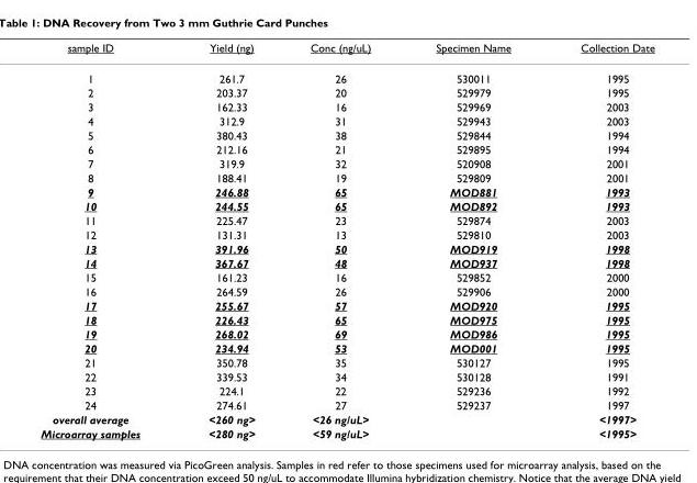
<table><thead><tr><td>sample ID</td><td>Yield (ng)</td><td>Conc (ng/uL)</td><td>Specimen Name</td><td>Collection Date</td></tr></thead><tbody><tr><td>1</td><td>261.7</td><td>26</td><td>530011</td><td>1995</td></tr><tr><td>2</td><td>203.37</td><td>20</td><td>529979</td><td>1995</td></tr><tr><td>3</td><td>162.33</td><td>16</td><td>529969</td><td>2003</td></tr><tr><td>4</td><td>312.9</td><td>31</td><td>529943</td><td>2003</td></tr><tr><td>5</td><td>380.43</td><td>38</td><td>529844</td><td>1994</td></tr><tr><td>6</td><td>212.16</td><td>21</td><td>529895</td><td>1994</td></tr><tr><td>7</td><td>319.9</td><td>32</td><td>520908</td><td>2001</td></tr><tr><td>8</td><td>188.41</td><td>19</td><td>529809</td><td>2001</td></tr><tr><td>9</td><td>246.88</td><td>65</td><td>MOD881</td><td>1993</td></tr><tr><td>10</td><td>244.55</td><td>65</td><td>MOD892</td><td>1993</td></tr><tr><td>11</td><td>225.47</td><td>23</td><td>529874</td><td>2003</td></tr><tr><td>12</td><td>131.31</td><td>13</td><td>529810</td><td>2003</td></tr><tr><td>13</td><td>391.96</td><td>50</td><td>MOD919</td><td>1998</td></tr><tr><td>14</td><td>367.67</td><td>48</td><td>MOD937</td><td>1998</td></tr><tr><td>15</td><td>161.23</td><td>16</td><td>529852</td><td>2000</td></tr><tr><td>16</td><td>264.59</td><td>26</td><td>529906</td><td>2000</td></tr><tr><td>17</td><td>255.67</td><td>57</td><td>MOD920</td><td>1995</td></tr><tr><td>18</td><td>226.43</td><td>65</td><td>MOD975</td><td>1995</td></tr><tr><td>19</td><td>268.02</td><td>69</td><td>MOD986</td><td>1995</td></tr><tr><td>20</td><td>234.94</td><td>53</td><td>MOD001</td><td>1995</td></tr><tr><td>21</td><td>350.78</td><td>35</td><td>530127</td><td>1995</td></tr><tr><td>22</td><td>339.53</td><td>34</td><td>530128</td><td>1991</td></tr><tr><td>23</td><td>224.1</td><td>22</td><td>529236</td><td>1992</td></tr><tr><td>24</td><td>274.61</td><td>27</td><td>529237</td><td>1997</td></tr><tr><td>overall average</td><td>&lt;260 ng&gt;</td><td>&lt;26 ng/uL&gt;</td><td></td><td>&lt;1997&gt;</td></tr><tr><td>Microarray samples</td><td>&lt;280 ng&gt;</td><td>&lt;59 ng/uL&gt;</td><td></td><td>&lt;1995&gt;</td></tr></tbody></table>